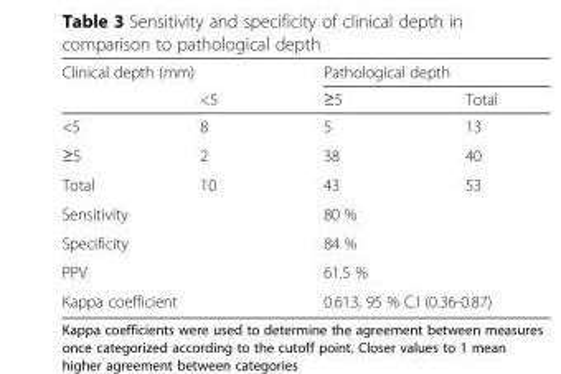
<table><thead><tr><td colspan="2">Clinical depth (mm)</td><td colspan="2">Pathological depth</td></tr><tr><td></td><td>&lt;5</td><td>≥5</td><td>Total</td></tr></thead><tbody><tr><td>&lt;5</td><td>8</td><td>5</td><td>13</td></tr><tr><td>≥5</td><td>2</td><td>38</td><td>40</td></tr><tr><td>Total</td><td>10</td><td>43</td><td>53</td></tr><tr><td colspan="2">Sensitivity</td><td colspan="2">80 %</td></tr><tr><td colspan="2">Specificity</td><td colspan="2">84 %</td></tr><tr><td colspan="2">PPV</td><td colspan="2">61.5 %</td></tr><tr><td colspan="2">Kappa coefficient</td><td colspan="2">0.613, 95 % C.I (0.36-0.87)</td></tr></tbody></table>